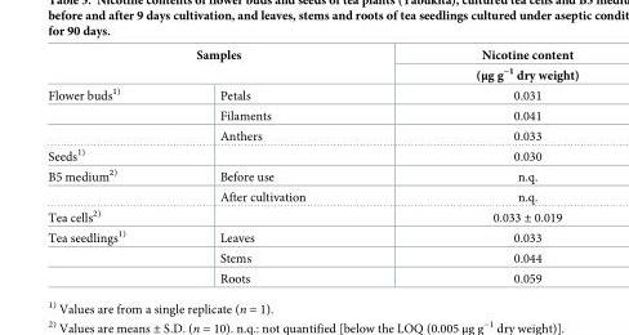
<table><thead><tr><td rowspan="2" colspan="2">Samples</td><td rowspan="3">Nicotine content (μg g<sup>−1</sup> dry weight) 0.031</td></tr><tr></tr><tr><td>Flower buds<sup>1)</sup></td><td>Petals</td></tr></thead><tbody><tr><td></td><td>Filaments</td><td>0.041</td></tr><tr><td></td><td>Anthers</td><td>0.033</td></tr><tr><td>Seeds<sup>1)</sup></td><td></td><td>0.030</td></tr><tr><td rowspan="2">B5 medium<sup>2)</sup></td><td>Before use</td><td>n.q.</td></tr><tr><td>After cultivation</td><td>n.q.</td></tr><tr><td>Tea cells<sup>2)</sup></td><td></td><td>0.033 ± 0.019</td></tr><tr><td rowspan="3">Tea seedlings<sup>1)</sup></td><td>Leaves</td><td>0.033</td></tr><tr><td>Stems</td><td>0.044</td></tr><tr><td>Roots</td><td>0.059</td></tr></tbody></table>